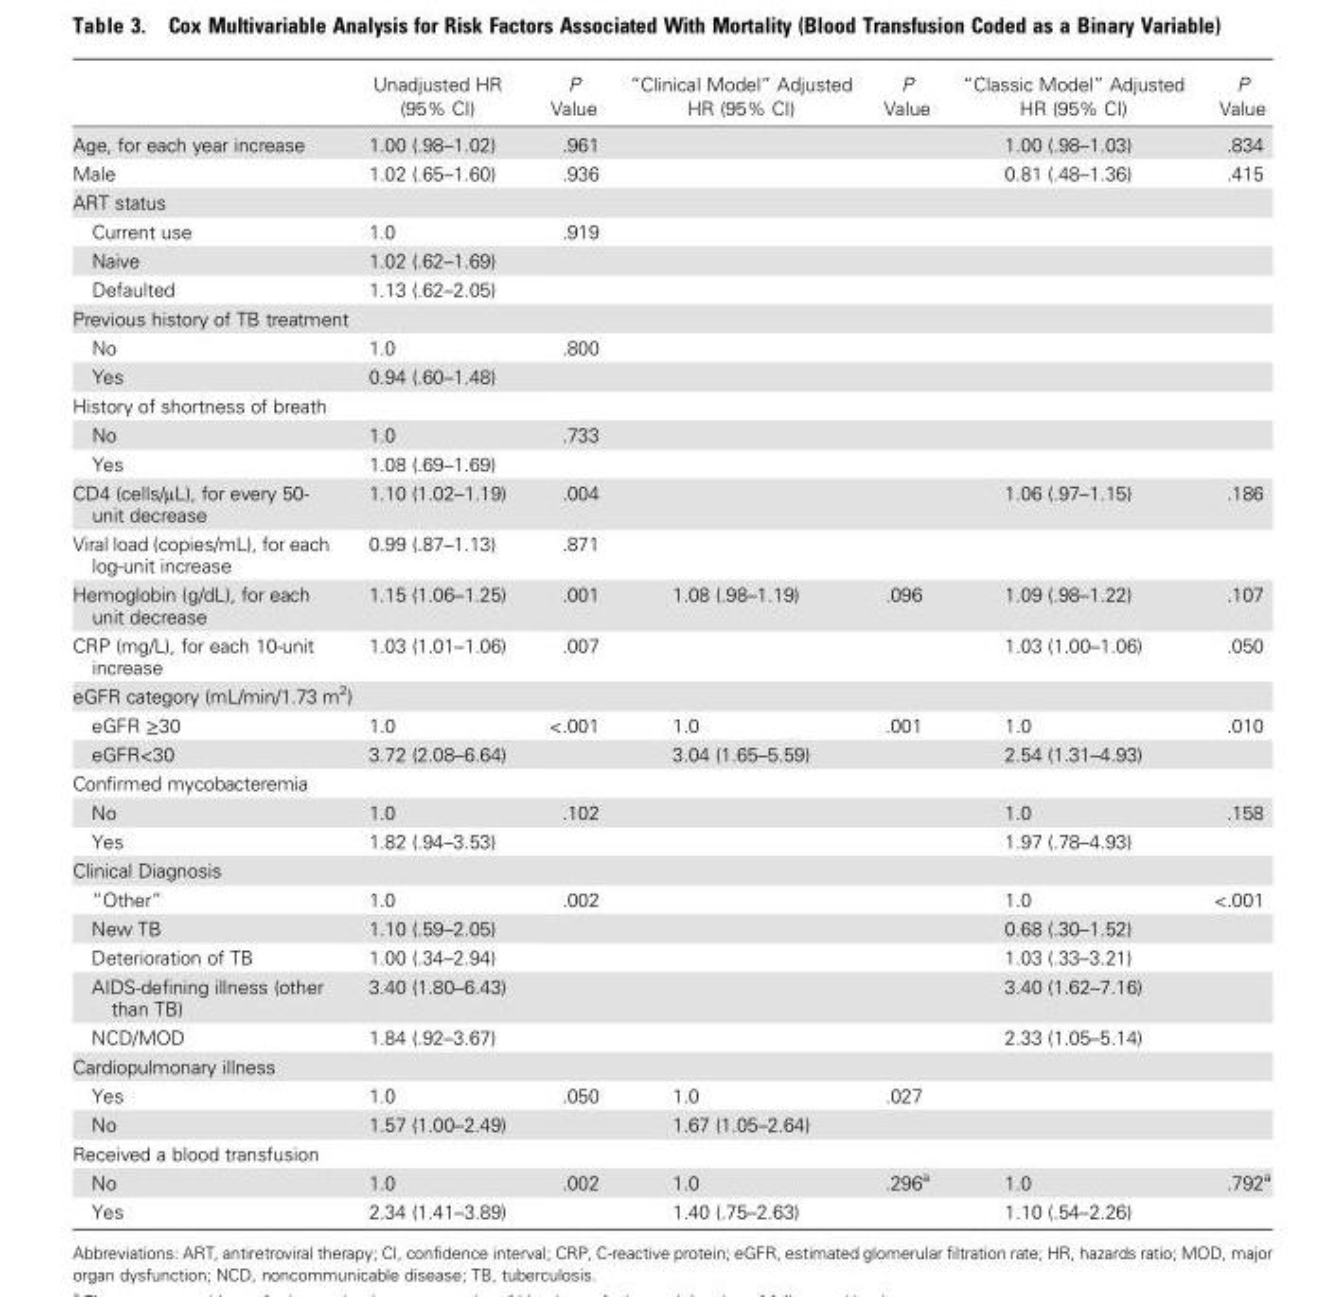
<table><thead><tr><td></td><td>Unadjusted HR (95% CI)</td><td>P Value</td><td>“Clinical Model” Adjusted HR (95% CI)</td><td>P Value</td><td>“Classic Model” Adjusted HR (95% CI)</td><td>P Value</td></tr></thead><tbody><tr><td>Age, for each year increase</td><td>1.00 (.98–1.02)</td><td>.961</td><td></td><td></td><td>1.00 (.98–1.03)</td><td>.834</td></tr><tr><td>Male</td><td>1.02 (.65–1.60)</td><td>.936</td><td></td><td></td><td>0.81 (.48–1.36)</td><td>.415</td></tr><tr><td colspan="7">ART status</td></tr><tr><td>Current use</td><td>1.0</td><td>.919</td><td></td><td></td><td></td><td></td></tr><tr><td>Naive</td><td>1.02 (.62–1.69)</td><td></td><td></td><td></td><td></td><td></td></tr><tr><td>Defaulted</td><td>1.13 (.62–2.05)</td><td></td><td></td><td></td><td></td><td></td></tr><tr><td colspan="7">Previous history of TB treatment</td></tr><tr><td>No</td><td>1.0</td><td>.800</td><td></td><td></td><td></td><td></td></tr><tr><td>Yes</td><td>0.94 (.60–1.48)</td><td></td><td></td><td></td><td></td><td></td></tr><tr><td colspan="7">History of shortness of breath</td></tr><tr><td>No</td><td>1.0</td><td>.733</td><td></td><td></td><td></td><td></td></tr><tr><td>Yes</td><td>1.08 (.69–1.69)</td><td></td><td></td><td></td><td></td><td></td></tr><tr><td>CD4 (cells/μL), for every 50- unit decrease</td><td>1.10 (1.02–1.19)</td><td>.004</td><td></td><td></td><td>1.06 (.97–1.15)</td><td>.186</td></tr><tr><td>Viral load (copies/mL), for each log-unit increase</td><td>0.99 (.87–1.13)</td><td>.871</td><td></td><td></td><td></td><td></td></tr><tr><td>Hemoglobin (g/dL), for each unit decrease</td><td>1.15 (1.06–1.25)</td><td>.001</td><td>1.08 (.98–1.19)</td><td>.096</td><td>1.09 (.98–1.22)</td><td>.107</td></tr><tr><td>CRP (mg/L), for each 10-unit increase</td><td>1.03 (1.01–1.06)</td><td>.007</td><td></td><td></td><td>1.03 (1.00–1.06)</td><td>.050</td></tr><tr><td colspan="7">eGFR category (mL/min/1.73 m<sup>2</sup>)</td></tr><tr><td>eGFR ≥30</td><td>1.0</td><td>&lt;.001</td><td>1.0</td><td>.001</td><td>1.0</td><td>.010</td></tr><tr><td>eGFR&lt;30</td><td>3.72 (2.08–6.64)</td><td></td><td>3.04 (1.65–5.59)</td><td></td><td>2.54 (1.31–4.93)</td><td></td></tr><tr><td colspan="7">Confirmed mycobacteremia</td></tr><tr><td>No</td><td>1.0</td><td>.102</td><td></td><td></td><td>1.0</td><td>.158</td></tr><tr><td>Yes</td><td>1.82 (.94–3.53)</td><td></td><td></td><td></td><td>1.97 (.78–4.93)</td><td></td></tr><tr><td colspan="7">Clinical Diagnosis</td></tr><tr><td>“Other”</td><td>1.0</td><td>.002</td><td></td><td></td><td>1.0</td><td>&lt;.001</td></tr><tr><td>New TB</td><td>1.10 (.59–2.05)</td><td></td><td></td><td></td><td>0.68 (.30–1.52)</td><td></td></tr><tr><td>Deterioration of TB</td><td>1.00 (.34–2.94)</td><td></td><td></td><td></td><td>1.03 (.33–3.21)</td><td></td></tr><tr><td>AIDS-defining illness (other than TB)</td><td>3.40 (1.80–6.43)</td><td></td><td></td><td></td><td>3.40 (1.62–7.16)</td><td></td></tr><tr><td>NCD/MOD</td><td>1.84 (.92–3.67)</td><td></td><td></td><td></td><td>2.33 (1.05–5.14)</td><td></td></tr><tr><td colspan="7">Cardiopulmonary illness</td></tr><tr><td>Yes</td><td>1.0</td><td>.050</td><td>1.0</td><td>.027</td><td></td><td></td></tr><tr><td>No</td><td>1.57 (1.00–2.49)</td><td></td><td>1.67 (1.05–2.64)</td><td></td><td></td><td></td></tr><tr><td colspan="7">Received a blood transfusion</td></tr><tr><td>No</td><td>1.0</td><td>.002</td><td>1.0</td><td>.296<sup>a</sup></td><td>1.0</td><td>.792<sup>a</sup></td></tr><tr><td>Yes</td><td>2.34 (1.41–3.89)</td><td></td><td>1.40 (.75–2.63)</td><td></td><td>1.10 (.54–2.26)</td><td></td></tr></tbody></table>